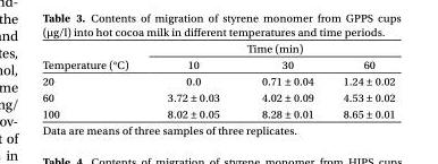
<table><thead><tr><td rowspan="2">Temperature (°C)</td><td colspan="3">Time (min)</td></tr><tr><td>10</td><td>30</td><td>60</td></tr></thead><tbody><tr><td>20</td><td>0.0</td><td>0.71 ± 0.04</td><td>1.24 ± 0.02</td></tr><tr><td>60</td><td>3.72 ± 0.03</td><td>4.02 ± 0.09</td><td>4.53 ± 0.02</td></tr><tr><td>100</td><td>8.02 ± 0.05</td><td>8.28 ± 0.01</td><td>8.65 ± 0.01</td></tr></tbody></table>